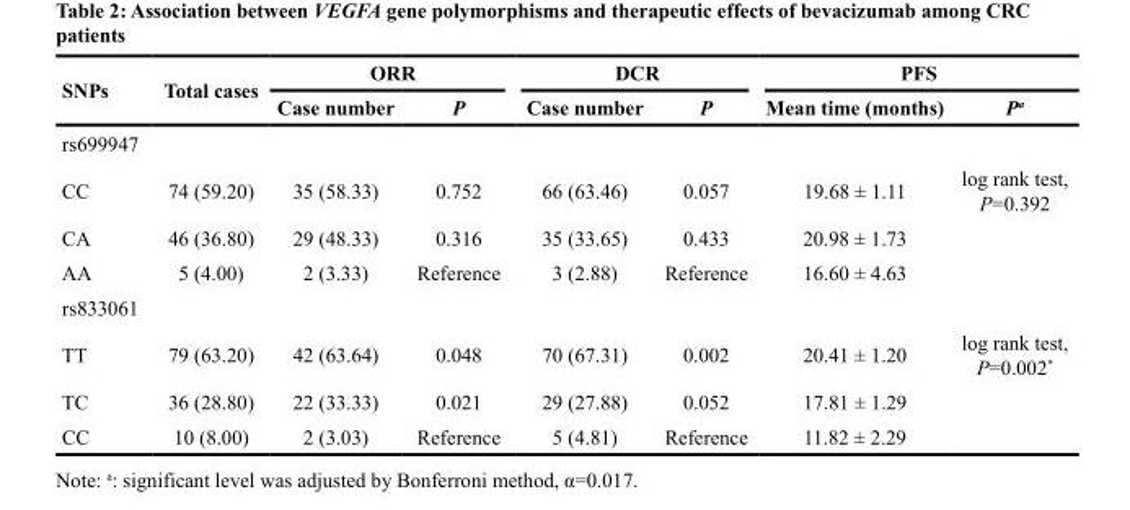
<table><thead><tr><td rowspan="2">SNPs</td><td rowspan="2">Total cases</td><td colspan="2">ORR</td><td colspan="2">DCR</td><td colspan="2">PFS</td></tr><tr><td>Case number</td><td>P</td><td>Case number</td><td>P</td><td>Mean time (months)</td><td>P<sup>a</sup></td></tr></thead><tbody><tr><td colspan="8">rs699947</td></tr><tr><td>CC</td><td>74 (59.20)</td><td>35 (58.33)</td><td>0.752</td><td>66 (63.46)</td><td>0.057</td><td>19.68 ± 1.11</td><td>log rank test, P=0.392</td></tr><tr><td>CA</td><td>46 (36.80)</td><td>29 (48.33)</td><td>0.316</td><td>35 (33.65)</td><td>0.433</td><td>20.98 ± 1.73</td><td></td></tr><tr><td>AA</td><td>5 (4.00)</td><td>2 (3.33)</td><td>Reference</td><td>3 (2.88)</td><td>Reference</td><td>16.60 ± 4.63</td><td></td></tr><tr><td colspan="8">rs833061</td></tr><tr><td>TT</td><td>79 (63.20)</td><td>42 (63.64)</td><td>0.048</td><td>70 (67.31)</td><td>0.002</td><td>20.41 ± 1.20</td><td>log rank test, P=0.002*</td></tr><tr><td>TC</td><td>36 (28.80)</td><td>22 (33.33)</td><td>0.021</td><td>29 (27.88)</td><td>0.052</td><td>17.81 ± 1.29</td><td></td></tr><tr><td>CC</td><td>10 (8.00)</td><td>2 (3.03)</td><td>Reference</td><td>5 (4.81)</td><td>Reference</td><td>11.82 ± 2.29</td><td></td></tr></tbody></table>